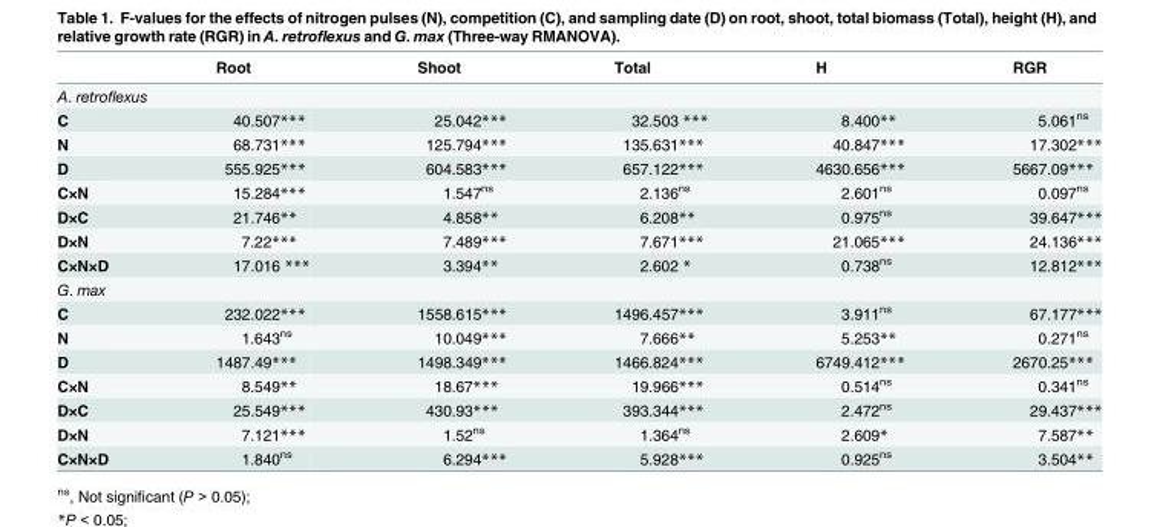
<table><thead><tr><td></td><td>Root</td><td>Shoot</td><td>Total</td><td>H</td><td>RGR</td></tr></thead><tbody><tr><td colspan="6">A. retroflexus</td></tr><tr><td>C</td><td>40.507***</td><td>25.042***</td><td>32.503 ***</td><td>8.400**</td><td>5.061<sup>ns</sup></td></tr><tr><td>N</td><td>68.731***</td><td>125.794***</td><td>135.631***</td><td>40.847***</td><td>17.302***</td></tr><tr><td>D</td><td>555.925***</td><td>604.583***</td><td>657.122***</td><td>4630.656***</td><td>5667.09***</td></tr><tr><td>C×N</td><td>15.284***</td><td>1.547<sup>ns</sup></td><td>2.136<sup>ns</sup></td><td>2.601<sup>ns</sup></td><td>0.097<sup>ns</sup></td></tr><tr><td>D×C</td><td>21.746**</td><td>4.858**</td><td>6.208**</td><td>0.975<sup>ns</sup></td><td>39.647***</td></tr><tr><td>D×N</td><td>7.22***</td><td>7.489***</td><td>7.671***</td><td>21.065***</td><td>24.136***</td></tr><tr><td>C×N×D</td><td>17.016 ***</td><td>3.394**</td><td>2.602 *</td><td>0.738<sup>ns</sup></td><td>12.812***</td></tr><tr><td colspan="6">G. max</td></tr><tr><td>C</td><td>232.022***</td><td>1558.615***</td><td>1496.457***</td><td>3.911<sup>ns</sup></td><td>67.177***</td></tr><tr><td>N</td><td>1.643<sup>ns</sup></td><td>10.049***</td><td>7.666**</td><td>5.253**</td><td>0.271<sup>ns</sup></td></tr><tr><td>D</td><td>1487.49***</td><td>1498.349***</td><td>1466.824***</td><td>6749.412***</td><td>2670.25***</td></tr><tr><td>C×N</td><td>8.549**</td><td>18.67***</td><td>19.966***</td><td>0.514<sup>ns</sup></td><td>0.341<sup>ns</sup></td></tr><tr><td>D×C</td><td>25.549***</td><td>430.93***</td><td>393.344***</td><td>2.472<sup>ns</sup></td><td>29.437***</td></tr><tr><td>D×N</td><td>7.121***</td><td>1.52<sup>ns</sup></td><td>1.364<sup>ns</sup></td><td>2.609*</td><td>7.587**</td></tr><tr><td>C×N×D</td><td>1.840<sup>ns</sup></td><td>6.294***</td><td>5.928***</td><td>0.925<sup>ns</sup></td><td>3.504**</td></tr></tbody></table>